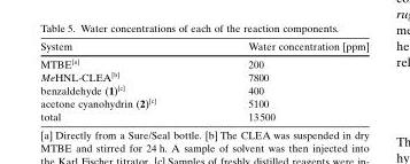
<table><thead><tr><td>System</td><td>Water concentration [ppm]</td></tr></thead><tbody><tr><td>MTBE[a]</td><td>200</td></tr><tr><td>MeHNL-CLEA[b]</td><td>7800</td></tr><tr><td>benzaldehyde (1)[c]</td><td>400</td></tr><tr><td>acetone cyanohydrin (2)[c]</td><td>5100</td></tr><tr><td>total</td><td>13500</td></tr></tbody></table>